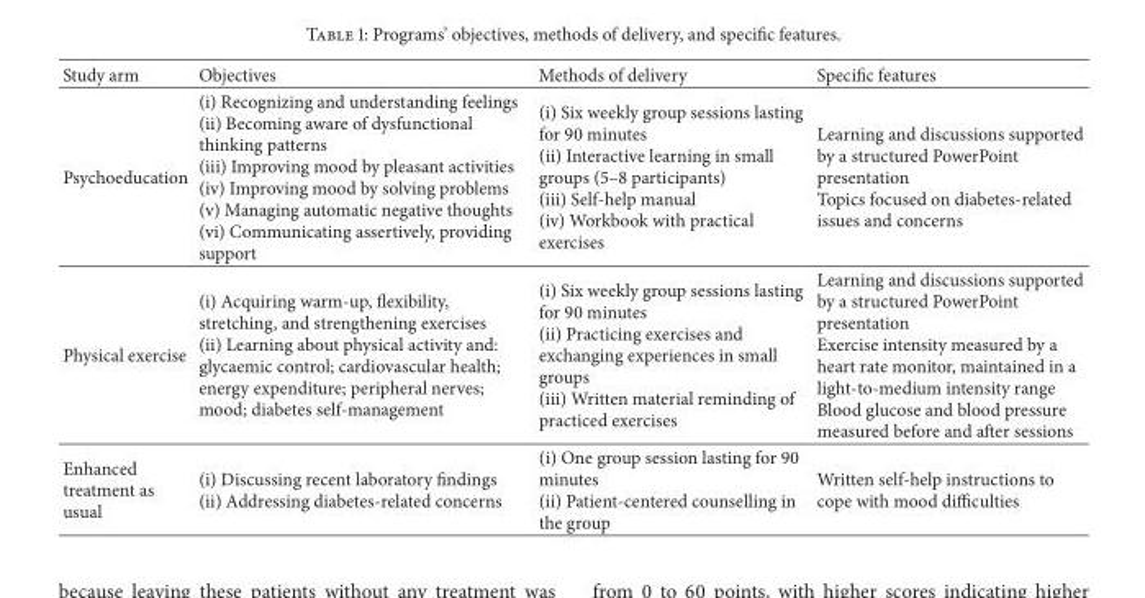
<table><thead><tr><td>Study arm</td><td>Objectives</td><td>Methods of delivery</td><td>Specific features</td></tr></thead><tbody><tr><td>Psychoeducation</td><td>(i) Recognizing and understanding feelings (ii) Becoming aware of dysfunctional thinking patterns (iii) Improving mood by pleasant activities (iv) Improving mood by solving problems (v) Managing automatic negative thoughts (vi) Communicating assertively, providing support</td><td>(i) Six weekly group sessions lasting for 90 minutes (ii) Interactive learning in small groups (5–8 participants) (iii) Self-help manual (iv) Workbook with practical exercises</td><td>Learning and discussions supported by a structured PowerPoint presentation Topics focused on diabetes-related issues and concerns</td></tr><tr><td>Physical exercise</td><td>(i) Acquiring warm-up, flexibility, stretching, and strengthening exercises (ii) Learning about physical activity and: glycaemic control; cardiovascular health; energy expenditure; peripheral nerves; mood; diabetes self-management</td><td>(i) Six weekly group sessions lasting for 90 minutes (ii) Practicing exercises and exchanging experiences in small groups (iii) Written material reminding of practiced exercises</td><td>Learning and discussions supported by a structured PowerPoint presentation Exercise intensity measured by a heart rate monitor, maintained in a light-to-medium intensity range Blood glucose and blood pressure measured before and after sessions</td></tr><tr><td>Enhanced treatment as usual</td><td>(i) Discussing recent laboratory findings (ii) Addressing diabetes-related concerns</td><td>(i) One group session lasting for 90 minutes (ii) Patient-centered counselling in the group</td><td>Written self-help instructions to cope with mood difficulties</td></tr></tbody></table>